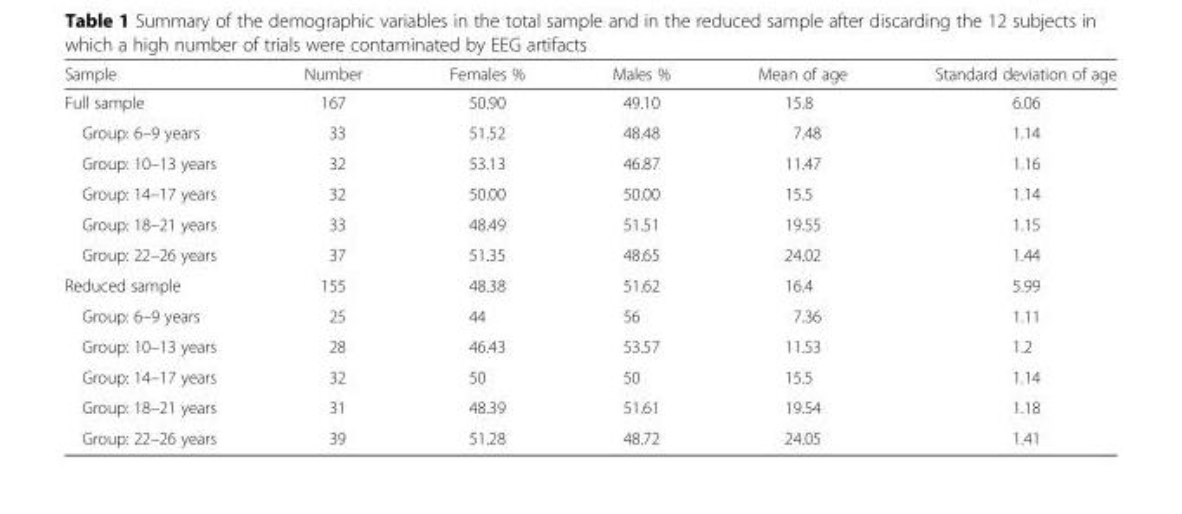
<table><thead><tr><td>Sample</td><td>Number</td><td>Females %</td><td>Males %</td><td>Mean of age</td><td>Standard deviation of age</td></tr></thead><tbody><tr><td>Full sample</td><td>167</td><td>50.90</td><td>49.10</td><td>15.8</td><td>6.06</td></tr><tr><td>Group: 6–9 years</td><td>33</td><td>51.52</td><td>48.48</td><td>7.48</td><td>1.14</td></tr><tr><td>Group: 10–13 years</td><td>32</td><td>53.13</td><td>46.87</td><td>11.47</td><td>1.16</td></tr><tr><td>Group: 14–17 years</td><td>32</td><td>50.00</td><td>50.00</td><td>15.5</td><td>1.14</td></tr><tr><td>Group: 18–21 years</td><td>33</td><td>48.49</td><td>51.51</td><td>19.55</td><td>1.15</td></tr><tr><td>Group: 22–26 years</td><td>37</td><td>51.35</td><td>48.65</td><td>24.02</td><td>1.44</td></tr><tr><td>Reduced sample</td><td>155</td><td>48.38</td><td>51.62</td><td>16.4</td><td>5.99</td></tr><tr><td>Group: 6–9 years</td><td>25</td><td>44</td><td>56</td><td>7.36</td><td>1.11</td></tr><tr><td>Group: 10–13 years</td><td>28</td><td>46.43</td><td>53.57</td><td>11.53</td><td>1.2</td></tr><tr><td>Group: 14–17 years</td><td>32</td><td>50</td><td>50</td><td>15.5</td><td>1.14</td></tr><tr><td>Group: 18–21 years</td><td>31</td><td>48.39</td><td>51.61</td><td>19.54</td><td>1.18</td></tr><tr><td>Group: 22–26 years</td><td>39</td><td>51.28</td><td>48.72</td><td>24.05</td><td>1.41</td></tr></tbody></table>